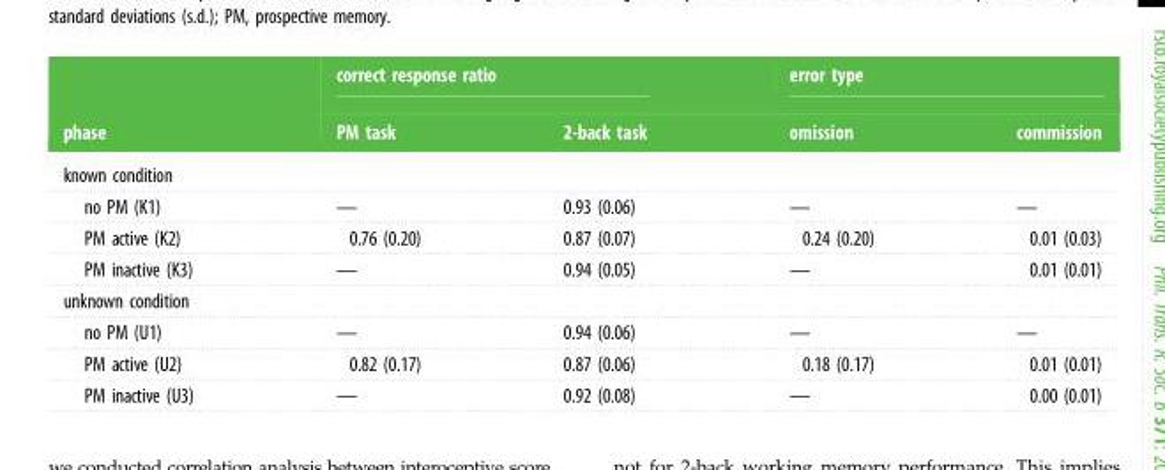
<table><thead><tr><td rowspan="2">phase</td><td colspan="2">correct response ratio</td><td colspan="2">error type</td></tr><tr><td>PM task</td><td>2-back task</td><td>omission</td><td>commission</td></tr></thead><tbody><tr><td colspan="5">known condition</td></tr><tr><td>no PM (K1)</td><td>—</td><td>0.93 (0.06)</td><td>—</td><td>—</td></tr><tr><td>PM active (K2)</td><td>0.76 (0.20)</td><td>0.87 (0.07)</td><td>0.24 (0.20)</td><td>0.01 (0.03)</td></tr><tr><td>PM inactive (K3)</td><td>—</td><td>0.94 (0.05)</td><td>—</td><td>0.01 (0.01)</td></tr><tr><td colspan="5">unknown condition</td></tr><tr><td>no PM (U1)</td><td>—</td><td>0.94 (0.06)</td><td>—</td><td>—</td></tr><tr><td>PM active (U2)</td><td>0.82 (0.17)</td><td>0.87 (0.06)</td><td>0.18 (0.17)</td><td>0.01 (0.01)</td></tr><tr><td>PM inactive (U3)</td><td>—</td><td>0.92 (0.08)</td><td>—</td><td>0.00 (0.01)</td></tr></tbody></table>